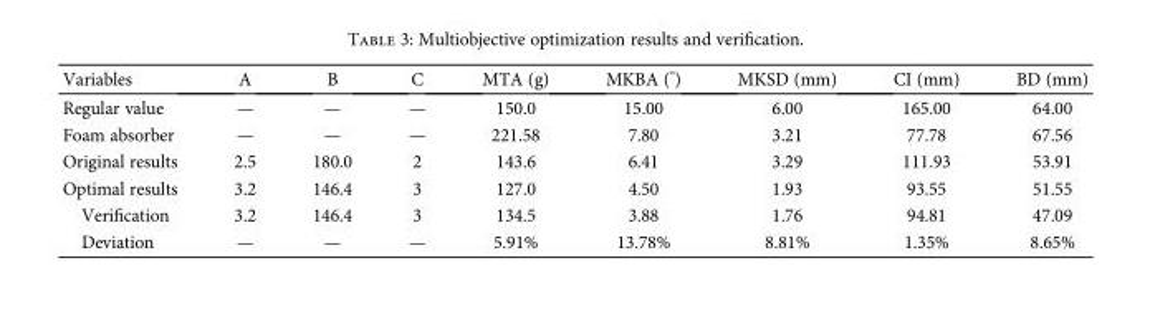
<table><thead><tr><td>Variables</td><td>A</td><td>B</td><td>C</td><td>MTA (g)</td><td>MKBA (°)</td><td>MKSD (mm)</td><td>CI (mm)</td><td>BD (mm)</td></tr></thead><tbody><tr><td>Regular value</td><td>—</td><td>—</td><td>—</td><td>150.0</td><td>15.00</td><td>6.00</td><td>165.00</td><td>64.00</td></tr><tr><td>Foam absorber</td><td>—</td><td>—</td><td>—</td><td>221.58</td><td>7.80</td><td>3.21</td><td>77.78</td><td>67.56</td></tr><tr><td>Original results</td><td>2.5</td><td>180.0</td><td>2</td><td>143.6</td><td>6.41</td><td>3.29</td><td>111.93</td><td>53.91</td></tr><tr><td>Optimal results</td><td>3.2</td><td>146.4</td><td>3</td><td>127.0</td><td>4.50</td><td>1.93</td><td>93.55</td><td>51.55</td></tr><tr><td>Verification</td><td>3.2</td><td>146.4</td><td>3</td><td>134.5</td><td>3.88</td><td>1.76</td><td>94.81</td><td>47.09</td></tr><tr><td>Deviation</td><td>—</td><td>—</td><td>—</td><td>5.91%</td><td>13.78%</td><td>8.81%</td><td>1.35%</td><td>8.65%</td></tr></tbody></table>